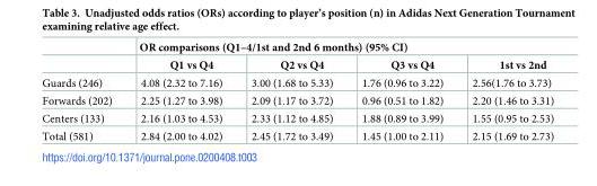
<table><thead><tr><td rowspan="2"></td><td colspan="4">OR comparisons (Q1–4/1st and 2nd 6 months) (95% CI)</td></tr><tr><td>Q1 vs Q4</td><td>Q2 vs Q4</td><td>Q3 vs Q4</td><td>1st vs 2nd</td></tr></thead><tbody><tr><td>Guards (246)</td><td>4.08 (2.32 to 7.16)</td><td>3.00 (1.68 to 5.33)</td><td>1.76 (0.96 to 3.22)</td><td>2.56(1.76 to 3.73)</td></tr><tr><td>Forwards (202)</td><td>2.25 (1.27 to 3.98)</td><td>2.09 (1.17 to 3.72)</td><td>0.96 (0.51 to 1.82)</td><td>2.20 (1.46 to 3.31)</td></tr><tr><td>Centers (133)</td><td>2.16 (1.03 to 4.53)</td><td>2.33 (1.12 to 4.85)</td><td>1.88 (0.89 to 3.99)</td><td>1.55 (0.95 to 2.53)</td></tr><tr><td>Total (581)</td><td>2.84 (2.00 to 4.02)</td><td>2.45 (1.72 to 3.49)</td><td>1.45 (1.00 to 2.11)</td><td>2.15 (1.69 to 2.73)</td></tr></tbody></table>